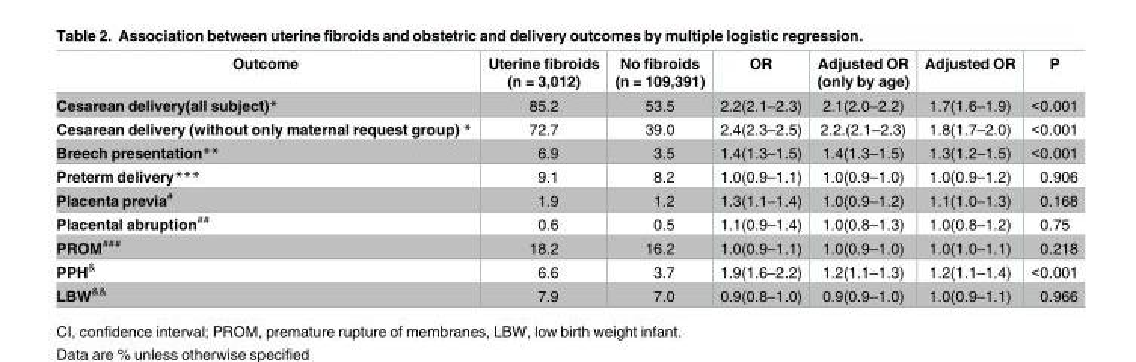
<table><thead><tr><td>Outcome</td><td>Uterine fibroids (n = 3,012)</td><td>No fibroids (n = 109,391)</td><td>OR</td><td>Adjusted OR (only by age)</td><td>Adjusted OR</td><td>P</td></tr></thead><tbody><tr><td>Cesarean delivery(all subject)*</td><td>85.2</td><td>53.5</td><td>2.2(2.1–2.3)</td><td>2.1(2.0–2.2)</td><td>1.7(1.6–1.9)</td><td>&lt;0.001</td></tr><tr><td>Cesarean delivery (without only maternal request group) *</td><td>72.7</td><td>39.0</td><td>2.4(2.3–2.5)</td><td>2.2.(2.1–2.3)</td><td>1.8(1.7–2.0)</td><td>&lt;0.001</td></tr><tr><td>Breech presentation**</td><td>6.9</td><td>3.5</td><td>1.4(1.3–1.5)</td><td>1.4(1.3–1.5)</td><td>1.3(1.2–1.5)</td><td>&lt;0.001</td></tr><tr><td>Preterm delivery***</td><td>9.1</td><td>8.2</td><td>1.0(0.9–1.1)</td><td>1.0(0.9–1.0)</td><td>1.0(0.9–1.2)</td><td>0.906</td></tr><tr><td>Placenta previa<sup>#</sup></td><td>1.9</td><td>1.2</td><td>1.3(1.1–1.4)</td><td>1.0(0.9–1.2)</td><td>1.1(1.0–1.3)</td><td>0.168</td></tr><tr><td>Placental abruption<sup>##</sup></td><td>0.6</td><td>0.5</td><td>1.1(0.9–1.4)</td><td>1.0(0.8–1.3)</td><td>1.0(0.8–1.2)</td><td>0.75</td></tr><tr><td>PROM<sup>###</sup></td><td>18.2</td><td>16.2</td><td>1.0(0.9–1.1)</td><td>1.0(0.9–1.0)</td><td>1.0(1.0–1.1)</td><td>0.218</td></tr><tr><td>PPH<sup>&amp;</sup></td><td>6.6</td><td>3.7</td><td>1.9(1.6–2.2)</td><td>1.2(1.1–1.3)</td><td>1.2(1.1–1.4)</td><td>&lt;0.001</td></tr><tr><td>LBW<sup>&amp;&amp;</sup></td><td>7.9</td><td>7.0</td><td>0.9(0.8–1.0)</td><td>0.9(0.9–1.0)</td><td>1.0(0.9–1.1)</td><td>0.966</td></tr></tbody></table>